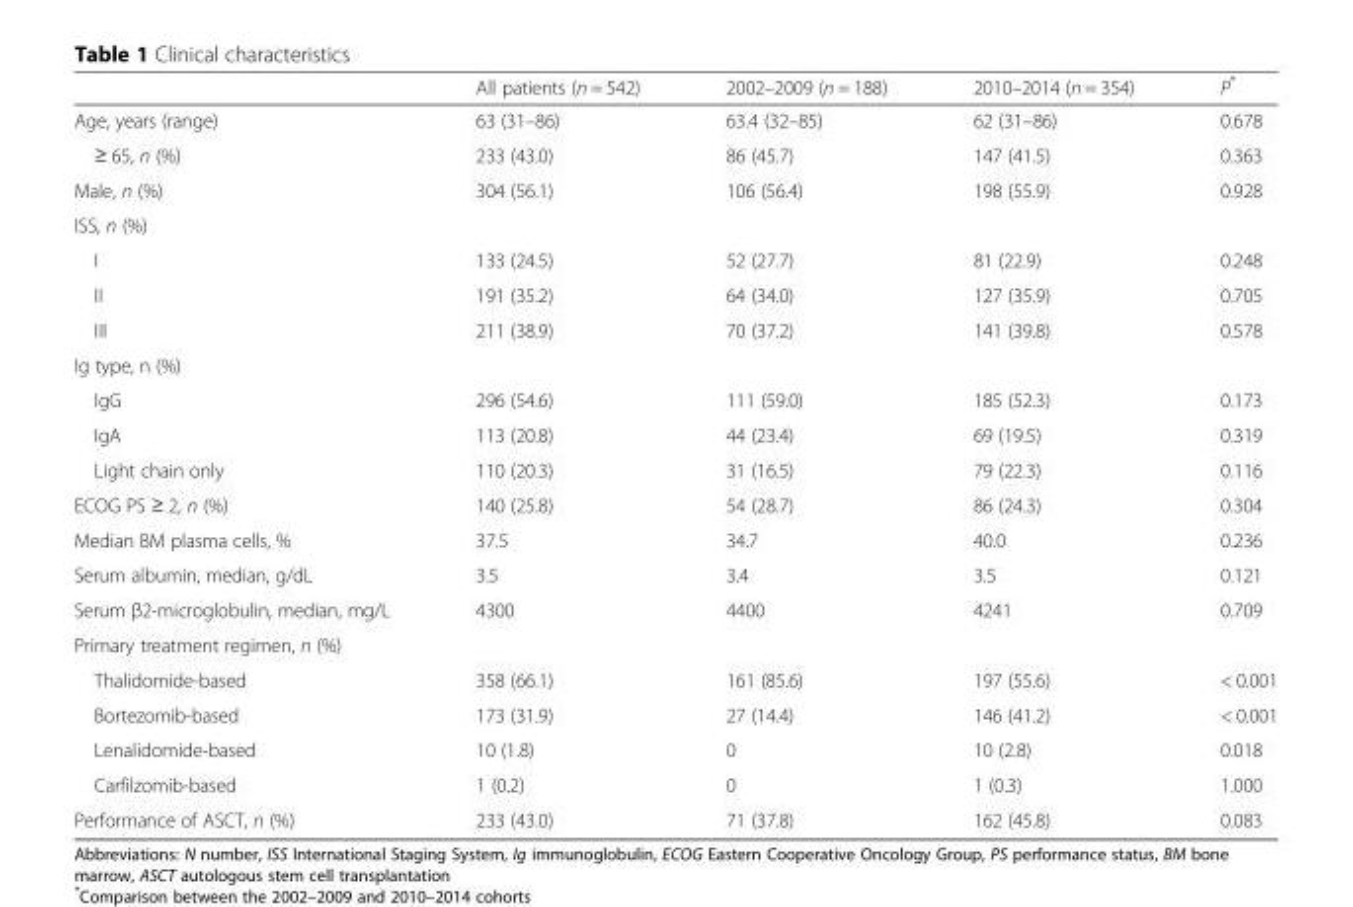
<table><thead><tr><td></td><td>All patients (n = 542)</td><td>2002–2009 (n = 188)</td><td>2010–2014 (n = 354)</td><td>P*</td></tr></thead><tbody><tr><td>Age, years (range)</td><td>63 (31–86)</td><td>63.4 (32–85)</td><td>62 (31–86)</td><td>0.678</td></tr><tr><td>≥ 65, n (%)</td><td>233 (43.0)</td><td>86 (45.7)</td><td>147 (41.5)</td><td>0.363</td></tr><tr><td>Male, n (%)</td><td>304 (56.1)</td><td>106 (56.4)</td><td>198 (55.9)</td><td>0.928</td></tr><tr><td colspan="5">ISS, n (%)</td></tr><tr><td>I</td><td>133 (24.5)</td><td>52 (27.7)</td><td>81 (22.9)</td><td>0.248</td></tr><tr><td>II</td><td>191 (35.2)</td><td>64 (34.0)</td><td>127 (35.9)</td><td>0.705</td></tr><tr><td>III</td><td>211 (38.9)</td><td>70 (37.2)</td><td>141 (39.8)</td><td>0.578</td></tr><tr><td colspan="5">Ig type, n (%)</td></tr><tr><td>IgG</td><td>296 (54.6)</td><td>111 (59.0)</td><td>185 (52.3)</td><td>0.173</td></tr><tr><td>IgA</td><td>113 (20.8)</td><td>44 (23.4)</td><td>69 (19.5)</td><td>0.319</td></tr><tr><td>Light chain only</td><td>110 (20.3)</td><td>31 (16.5)</td><td>79 (22.3)</td><td>0.116</td></tr><tr><td>ECOG PS ≥ 2, n (%)</td><td>140 (25.8)</td><td>54 (28.7)</td><td>86 (24.3)</td><td>0.304</td></tr><tr><td>Median BM plasma cells, %</td><td>37.5</td><td>34.7</td><td>40.0</td><td>0.236</td></tr><tr><td>Serum albumin, median, g/dL</td><td>3.5</td><td>3.4</td><td>3.5</td><td>0.121</td></tr><tr><td>Serum β2-microglobulin, median, mg/L</td><td>4300</td><td>4400</td><td>4241</td><td>0.709</td></tr><tr><td colspan="5">Primary treatment regimen, n (%)</td></tr><tr><td>Thalidomide-based</td><td>358 (66.1)</td><td>161 (85.6)</td><td>197 (55.6)</td><td>&lt; 0.001</td></tr><tr><td>Bortezomib-based</td><td>173 (31.9)</td><td>27 (14.4)</td><td>146 (41.2)</td><td>&lt; 0.001</td></tr><tr><td>Lenalidomide-based</td><td>10 (1.8)</td><td>0</td><td>10 (2.8)</td><td>0.018</td></tr><tr><td>Carfilzomib-based</td><td>1 (0.2)</td><td>0</td><td>1 (0.3)</td><td>1.000</td></tr><tr><td>Performance of ASCT, n (%)</td><td>233 (43.0)</td><td>71 (37.8)</td><td>162 (45.8)</td><td>0.083</td></tr></tbody></table>